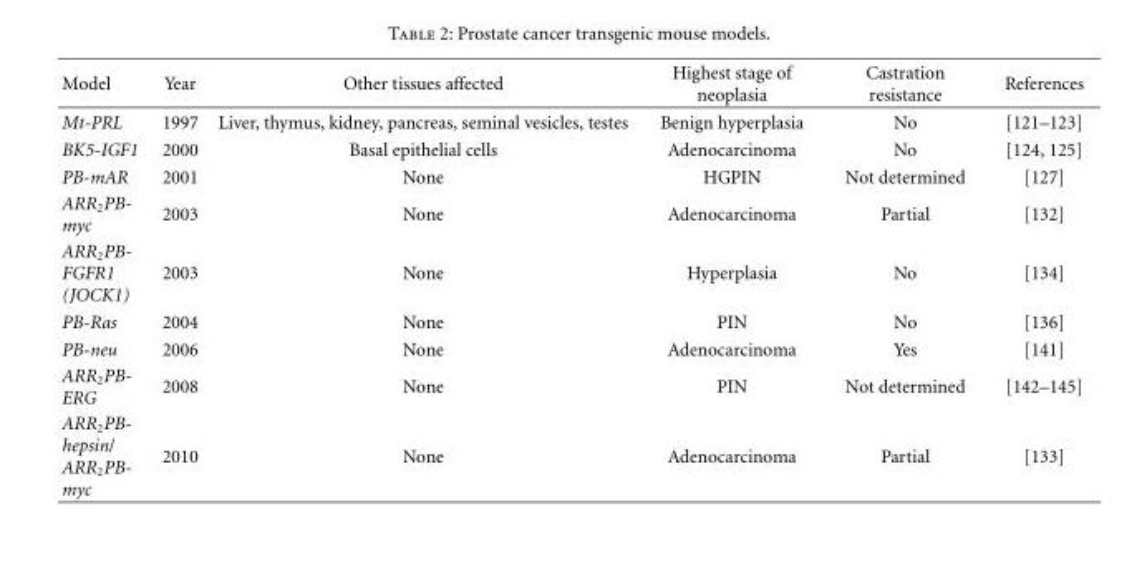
<table><thead><tr><td>Model</td><td>Year</td><td>Other tissues affected</td><td>Highest stage of neoplasia</td><td>Castration resistance</td><td>References</td></tr></thead><tbody><tr><td>Mt-PRL</td><td>1997</td><td>Liver, thymus, kidney, pancreas, seminal vesicles, testes</td><td>Benign hyperplasia</td><td>No</td><td>[121–123]</td></tr><tr><td>BK5-IGF1</td><td>2000</td><td>Basal epithelial cells</td><td>Adenocarcinoma</td><td>No</td><td>[124, 125]</td></tr><tr><td>PB-mAR</td><td>2001</td><td>None</td><td>HGPIN</td><td>Not determined</td><td>[127]</td></tr><tr><td>ARR<sub>2</sub>PB- myc</td><td>2003</td><td>None</td><td>Adenocarcinoma</td><td>Partial</td><td>[132]</td></tr><tr><td>ARR<sub>2</sub>PB- FGFR1 (JOCK1)</td><td>2003</td><td>None</td><td>Hyperplasia</td><td>No</td><td>[134]</td></tr><tr><td>PB-Ras</td><td>2004</td><td>None</td><td>PIN</td><td>No</td><td>[136]</td></tr><tr><td>PB-neu</td><td>2006</td><td>None</td><td>Adenocarcinoma</td><td>Yes</td><td>[141]</td></tr><tr><td>ARR<sub>2</sub>PB- ERG</td><td>2008</td><td>None</td><td>PIN</td><td>Not determined</td><td>[142–145]</td></tr><tr><td>ARR<sub>2</sub>PB- hepsin/ ARR<sub>2</sub>PB- myc</td><td>2010</td><td>None</td><td>Adenocarcinoma</td><td>Partial</td><td>[133]</td></tr></tbody></table>